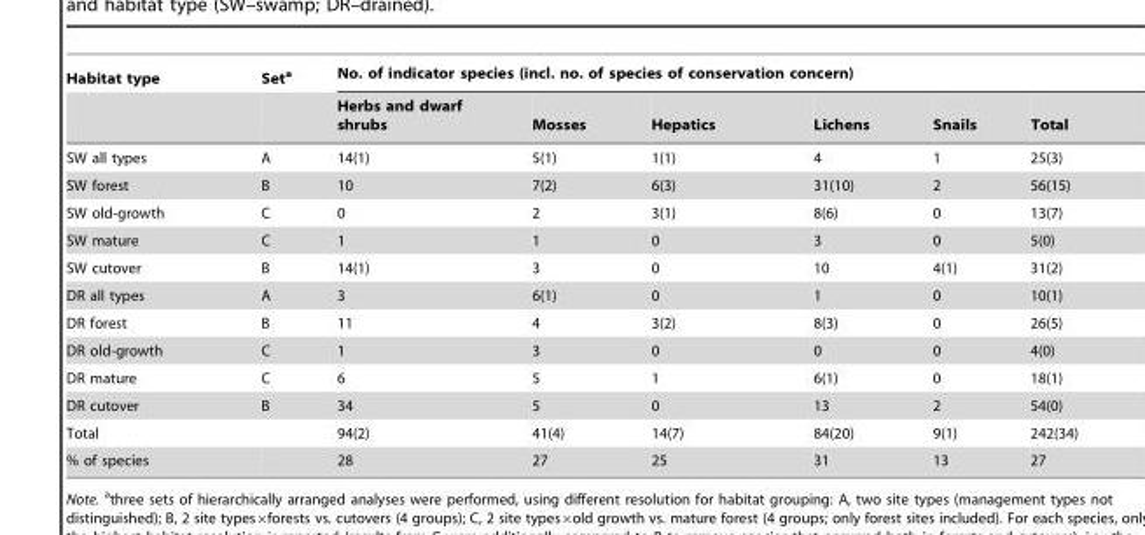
<table><thead><tr><td rowspan="2">Habitat type</td><td rowspan="2">Set<sup>a</sup></td><td colspan="6">No. of indicator species (incl. no. of species of conservation concern)</td></tr><tr><td>Herbs and dwarf shrubs</td><td>Mosses</td><td>Hepatics</td><td>Lichens</td><td>Snails</td><td>Total</td></tr></thead><tbody><tr><td>SW all types</td><td>A</td><td>14(1)</td><td>5(1)</td><td>1(1)</td><td>4</td><td>1</td><td>25(3)</td></tr><tr><td>SW forest</td><td>B</td><td>10</td><td>7(2)</td><td>6(3)</td><td>31(10)</td><td>2</td><td>56(15)</td></tr><tr><td>SW old-growth</td><td>C</td><td>0</td><td>2</td><td>3(1)</td><td>8(6)</td><td>0</td><td>13(7)</td></tr><tr><td>SW mature</td><td>C</td><td>1</td><td>1</td><td>0</td><td>3</td><td>0</td><td>5(0)</td></tr><tr><td>SW cutover</td><td>B</td><td>14(1)</td><td>3</td><td>0</td><td>10</td><td>4(1)</td><td>31(2)</td></tr><tr><td>DR all types</td><td>A</td><td>3</td><td>6(1)</td><td>0</td><td>1</td><td>0</td><td>10(1)</td></tr><tr><td>DR forest</td><td>B</td><td>11</td><td>4</td><td>3(2)</td><td>8(3)</td><td>0</td><td>26(5)</td></tr><tr><td>DR old-growth</td><td>C</td><td>1</td><td>3</td><td>0</td><td>0</td><td>0</td><td>4(0)</td></tr><tr><td>DR mature</td><td>C</td><td>6</td><td>5</td><td>1</td><td>6(1)</td><td>0</td><td>18(1)</td></tr><tr><td>DR cutover</td><td>B</td><td>34</td><td>5</td><td>0</td><td>13</td><td>2</td><td>54(0)</td></tr><tr><td>Total</td><td></td><td>94(2)</td><td>41(4)</td><td>14(7)</td><td>84(20)</td><td>9(1)</td><td>242(34)</td></tr><tr><td>% of species</td><td></td><td>28</td><td>27</td><td>25</td><td>31</td><td>13</td><td>27</td></tr></tbody></table>